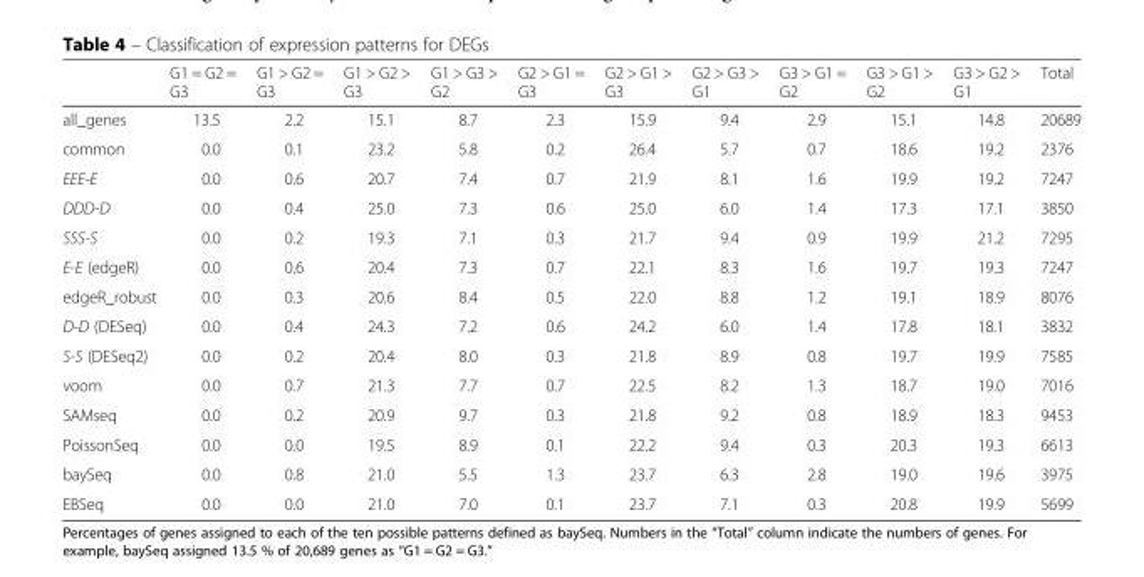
<table><thead><tr><td></td><td>G1 = G2 = G3</td><td>G1 &gt; G2 = G3</td><td>G1 &gt; G2 &gt; G3</td><td>G1 &gt; G3 &gt; G2</td><td>G2 &gt; G1 = G3</td><td>G2 &gt; G1 &gt; G3</td><td>G2 &gt; G3 &gt; G1</td><td>G3 &gt; G1 = G2</td><td>G3 &gt; G1 &gt; G2</td><td>G3 &gt; G2 &gt; G1</td><td>Total</td></tr></thead><tbody><tr><td>all_genes</td><td>13.5</td><td>2.2</td><td>15.1</td><td>8.7</td><td>2.3</td><td>15.9</td><td>9.4</td><td>2.9</td><td>15.1</td><td>14.8</td><td>20689</td></tr><tr><td>common</td><td>0.0</td><td>0.1</td><td>23.2</td><td>5.8</td><td>0.2</td><td>26.4</td><td>5.7</td><td>0.7</td><td>18.6</td><td>19.2</td><td>2376</td></tr><tr><td>EEE-E</td><td>0.0</td><td>0.6</td><td>20.7</td><td>7.4</td><td>0.7</td><td>21.9</td><td>8.1</td><td>1.6</td><td>19.9</td><td>19.2</td><td>7247</td></tr><tr><td>DDD-D</td><td>0.0</td><td>0.4</td><td>25.0</td><td>7.3</td><td>0.6</td><td>25.0</td><td>6.0</td><td>1.4</td><td>17.3</td><td>17.1</td><td>3850</td></tr><tr><td>SSS-S</td><td>0.0</td><td>0.2</td><td>19.3</td><td>7.1</td><td>0.3</td><td>21.7</td><td>9.4</td><td>0.9</td><td>19.9</td><td>21.2</td><td>7295</td></tr><tr><td>E-E (edgeR)</td><td>0.0</td><td>0.6</td><td>20.4</td><td>7.3</td><td>0.7</td><td>22.1</td><td>8.3</td><td>1.6</td><td>19.7</td><td>19.3</td><td>7247</td></tr><tr><td>edgeR_robust</td><td>0.0</td><td>0.3</td><td>20.6</td><td>8.4</td><td>0.5</td><td>22.0</td><td>8.8</td><td>1.2</td><td>19.1</td><td>18.9</td><td>8076</td></tr><tr><td>D-D (DESeq)</td><td>0.0</td><td>0.4</td><td>24.3</td><td>7.2</td><td>0.6</td><td>24.2</td><td>6.0</td><td>1.4</td><td>17.8</td><td>18.1</td><td>3832</td></tr><tr><td>S-S (DESeq2)</td><td>0.0</td><td>0.2</td><td>20.4</td><td>8.0</td><td>0.3</td><td>21.8</td><td>8.9</td><td>0.8</td><td>19.7</td><td>19.9</td><td>7585</td></tr><tr><td>voom</td><td>0.0</td><td>0.7</td><td>21.3</td><td>7.7</td><td>0.7</td><td>22.5</td><td>8.2</td><td>1.3</td><td>18.7</td><td>19.0</td><td>7016</td></tr><tr><td>SAMseq</td><td>0.0</td><td>0.2</td><td>20.9</td><td>9.7</td><td>0.3</td><td>21.8</td><td>9.2</td><td>0.8</td><td>18.9</td><td>18.3</td><td>9453</td></tr><tr><td>PoissonSeq</td><td>0.0</td><td>0.0</td><td>19.5</td><td>8.9</td><td>0.1</td><td>22.2</td><td>9.4</td><td>0.3</td><td>20.3</td><td>19.3</td><td>6613</td></tr><tr><td>baySeq</td><td>0.0</td><td>0.8</td><td>21.0</td><td>5.5</td><td>1.3</td><td>23.7</td><td>6.3</td><td>2.8</td><td>19.0</td><td>19.6</td><td>3975</td></tr><tr><td>EBSeq</td><td>0.0</td><td>0.0</td><td>21.0</td><td>7.0</td><td>0.1</td><td>23.7</td><td>7.1</td><td>0.3</td><td>20.8</td><td>19.9</td><td>5699</td></tr></tbody></table>